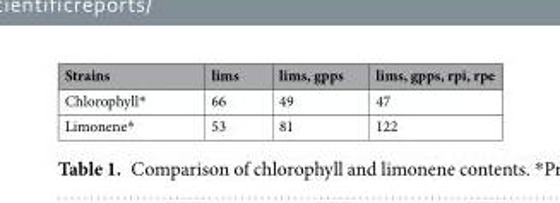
<table><thead><tr><td>Strains</td><td>lims</td><td>lims, gpps</td><td>lims, gpps, rpi, rpe</td></tr></thead><tbody><tr><td>Chlorophyll*</td><td>66</td><td>49</td><td>47</td></tr><tr><td>Limonene*</td><td>53</td><td>81</td><td>122</td></tr></tbody></table>